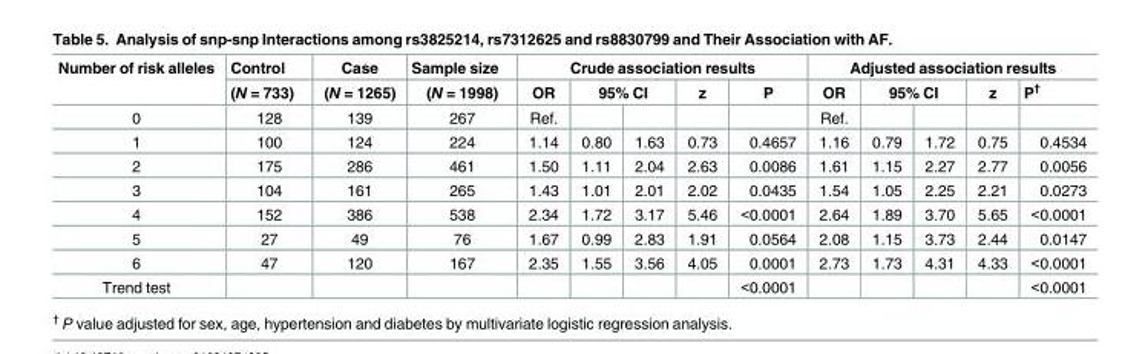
<table><thead><tr><td rowspan="3">Number of risk alleles 0</td><td rowspan="3">Control (N = 733) 128</td><td rowspan="3">Case (N = 1265) 139</td><td rowspan="3">Sample size (N = 1998) 267</td><td colspan="5">Crude association results</td><td colspan="5">Adjusted association results</td></tr><tr><td rowspan="2">OR Ref.</td><td colspan="2">95% CI</td><td rowspan="2">z</td><td rowspan="2">P</td><td rowspan="2">OR Ref.</td><td colspan="2">95% CI</td><td rowspan="2">z</td><td rowspan="2">P<sup>†</sup></td></tr><tr><td></td><td></td><td></td><td></td></tr></thead><tbody><tr><td>1</td><td>100</td><td>124</td><td>224</td><td>1.14</td><td>0.80</td><td>1.63</td><td>0.73</td><td>0.4657</td><td>1.16</td><td>0.79</td><td>1.72</td><td>0.75</td><td>0.4534</td></tr><tr><td>2</td><td>175</td><td>286</td><td>461</td><td>1.50</td><td>1.11</td><td>2.04</td><td>2.63</td><td>0.0086</td><td>1.61</td><td>1.15</td><td>2.27</td><td>2.77</td><td>0.0056</td></tr><tr><td>3</td><td>104</td><td>161</td><td>265</td><td>1.43</td><td>1.01</td><td>2.01</td><td>2.02</td><td>0.0435</td><td>1.54</td><td>1.05</td><td>2.25</td><td>2.21</td><td>0.0273</td></tr><tr><td>4</td><td>152</td><td>386</td><td>538</td><td>2.34</td><td>1.72</td><td>3.17</td><td>5.46</td><td>&lt;0.0001</td><td>2.64</td><td>1.89</td><td>3.70</td><td>5.65</td><td>&lt;0.0001</td></tr><tr><td>5</td><td>27</td><td>49</td><td>76</td><td>1.67</td><td>0.99</td><td>2.83</td><td>1.91</td><td>0.0564</td><td>2.08</td><td>1.15</td><td>3.73</td><td>2.44</td><td>0.0147</td></tr><tr><td>6</td><td>47</td><td>120</td><td>167</td><td>2.35</td><td>1.55</td><td>3.56</td><td>4.05</td><td>0.0001</td><td>2.73</td><td>1.73</td><td>4.31</td><td>4.33</td><td>&lt;0.0001</td></tr><tr><td>Trend test</td><td></td><td></td><td></td><td></td><td></td><td></td><td></td><td>&lt;0.0001</td><td></td><td></td><td></td><td></td><td>&lt;0.0001</td></tr></tbody></table>